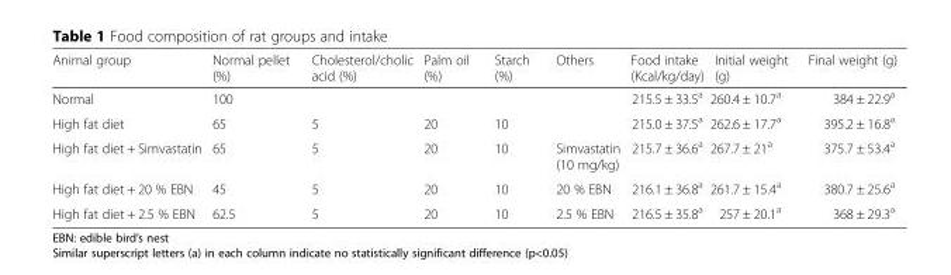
<table><thead><tr><td>Animal group</td><td>Normal pellet (%)</td><td>Cholesterol/cholic acid (%)</td><td>Palm oil (%)</td><td>Starch (%)</td><td>Others</td><td>Food intake (Kcal/kg/day)</td><td>Initial weight (g)</td><td>Final weight (g)</td></tr></thead><tbody><tr><td>Normal</td><td>100</td><td></td><td></td><td></td><td></td><td>215.5 ± 33.5<sup>a</sup></td><td>260.4 ± 10.7<sup>a</sup></td><td>384 ± 22.9<sup>a</sup></td></tr><tr><td>High fat diet</td><td>65</td><td>5</td><td>20</td><td>10</td><td></td><td>215.0 ± 37.5<sup>a</sup></td><td>262.6 ± 17.7<sup>a</sup></td><td>395.2 ± 16.8<sup>a</sup></td></tr><tr><td>High fat diet + Simvastatin</td><td>65</td><td>5</td><td>20</td><td>10</td><td>Simvastatin (10 mg/kg)</td><td>215.7 ± 36.6<sup>a</sup></td><td>267.7 ± 21<sup>a</sup></td><td>375.7 ± 53.4<sup>a</sup></td></tr><tr><td>High fat diet + 20 % EBN</td><td>45</td><td>5</td><td>20</td><td>10</td><td>20 % EBN</td><td>216.1 ± 36.8<sup>a</sup></td><td>261.7 ± 15.4<sup>a</sup></td><td>380.7 ± 25.6<sup>a</sup></td></tr><tr><td>High fat diet + 2.5 % EBN</td><td>62.5</td><td>5</td><td>20</td><td>10</td><td>2.5 % EBN</td><td>216.5 ± 35.8<sup>a</sup></td><td>257 ± 20.1<sup>a</sup></td><td>368 ± 29.3<sup>a</sup></td></tr></tbody></table>